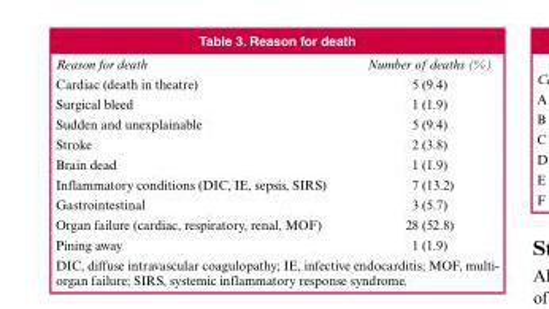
<table><thead><tr><td>Reason for death</td><td>Number of deaths (%)</td></tr></thead><tbody><tr><td>Cardiac (death in theatre)</td><td>5 (9.4)</td></tr><tr><td>Surgical bleed</td><td>1 (1.9)</td></tr><tr><td>Sudden and unexplainable</td><td>5 (9.4)</td></tr><tr><td>Stroke</td><td>2 (3.8)</td></tr><tr><td>Brain dead</td><td>1 (1.9)</td></tr><tr><td>Inflammatory conditions (DIC, IE, sepsis, SIRS)</td><td>7 (13.2)</td></tr><tr><td>Gastrointestinal</td><td>3 (5.7)</td></tr><tr><td>Organ failure (cardiac, respiratory, renal, MOF)</td><td>28 (52.8)</td></tr><tr><td>Pining away</td><td>1 (1.9)</td></tr></tbody></table>